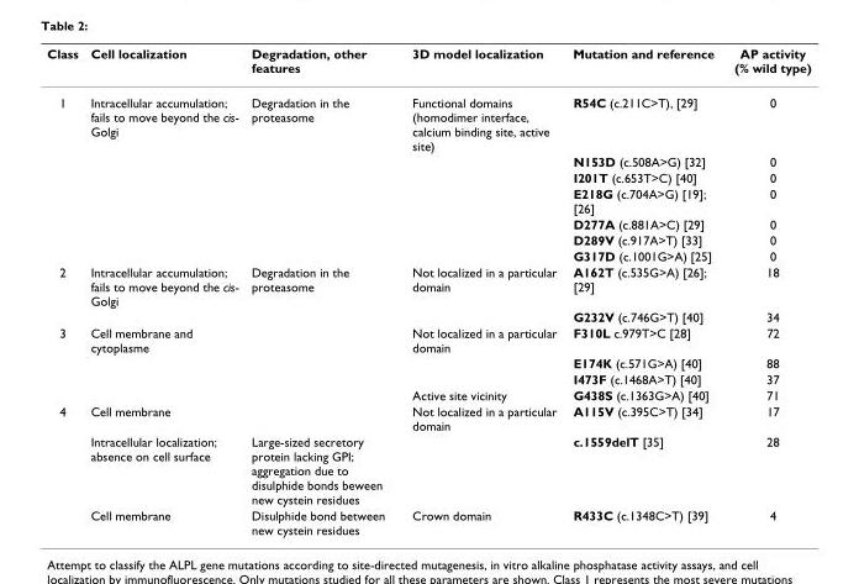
<table><thead><tr><td>Class</td><td>Cell localization</td><td>Degradation, other features</td><td>3D model localization</td><td>Mutation and reference</td><td>AP activity (% wild type)</td></tr></thead><tbody><tr><td rowspan="7">1</td><td>Intracellular accumulation; fails to move beyond the cis- Golgi</td><td>Degradation in the proteasome</td><td>Functional domains (homodimer interface, calcium binding site, active site)</td><td>R54C (c.211C&gt;T), [29]</td><td>0</td></tr><tr><td></td><td></td><td></td><td>N153D (c.508A&gt;G) [32]</td><td>0</td></tr><tr><td></td><td></td><td></td><td>I201T (c.653T&gt;C) [40]</td><td>0</td></tr><tr><td></td><td></td><td></td><td>E218G (c.704A&gt;G) [19]; [26]</td><td>0</td></tr><tr><td></td><td></td><td></td><td>D277A (c.881A&gt;C) [29]</td><td>0</td></tr><tr><td></td><td></td><td></td><td>D289V (c.917A&gt;T) [33]</td><td>0</td></tr><tr><td></td><td></td><td></td><td>G317D (c.1001G&gt;A) [25]</td><td>0</td></tr><tr><td rowspan="2">2</td><td>Intracellular accumulation; fails to move beyond the cis- Golgi</td><td>Degradation in the proteasome</td><td>Not localized in a particular domain</td><td>A162T (c.535G&gt;A) [26]; [29]</td><td>18</td></tr><tr><td></td><td></td><td></td><td>G232V (c.746G&gt;T) [40]</td><td>34</td></tr><tr><td rowspan="4">3</td><td>Cell membrane and cytoplasme</td><td></td><td>Not localized in a particular domain</td><td>F310L c.979T&gt;C [28]</td><td>72</td></tr><tr><td></td><td></td><td></td><td>E174K (c.571G&gt;A) [40]</td><td>88</td></tr><tr><td></td><td></td><td></td><td>I473F (c.1468A&gt;T) [40]</td><td>37</td></tr><tr><td></td><td></td><td>Active site vicinity</td><td>G438S (c.1363G&gt;A) [40]</td><td>71</td></tr><tr><td rowspan="3">4</td><td>Cell membrane</td><td></td><td>Not localized in a particular domain</td><td>A115V (c.395C&gt;T) [34]</td><td>17</td></tr><tr><td>Intracellular localization; absence on cell surface</td><td>Large-sized secretory protein lacking GPI; aggregation due to disulphide bonds beween new cystein residues</td><td></td><td>c.1559delT [35]</td><td>28</td></tr><tr><td>Cell membrane</td><td>Disulphide bond between new cystein residues</td><td>Crown domain</td><td>R433C (c.1348C&gt;T) [39]</td><td>4</td></tr></tbody></table>